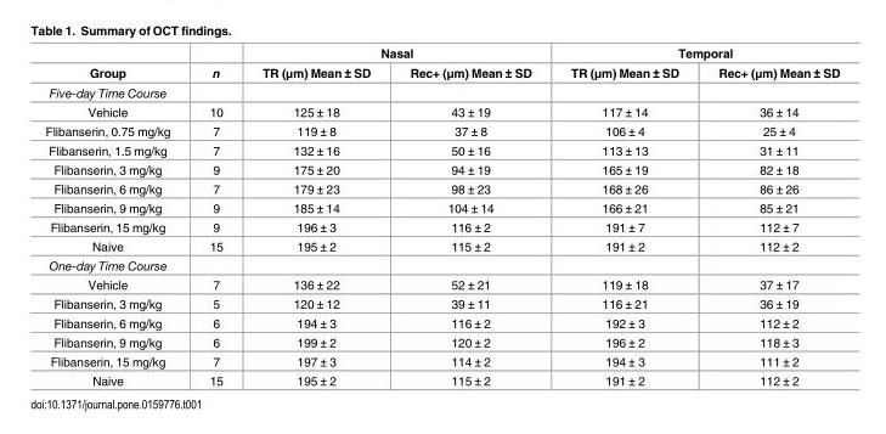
<table><thead><tr><td rowspan="2">Group</td><td rowspan="2">n</td><td colspan="2">Nasal</td><td colspan="2">Temporal</td></tr><tr><td>TR (μm) Mean ± SD</td><td>Rec+ (μm) Mean ± SD</td><td>TR (μm) Mean ± SD</td><td>Rec+ (μm) Mean ± SD</td></tr></thead><tbody><tr><td colspan="6">Five-day Time Course</td></tr><tr><td>Vehicle</td><td>10</td><td>125 ± 18</td><td>43 ± 19</td><td>117 ± 14</td><td>36 ± 14</td></tr><tr><td>Flibanserin, 0.75 mg/kg</td><td>7</td><td>119 ± 8</td><td>37 ± 8</td><td>106 ± 4</td><td>25 ± 4</td></tr><tr><td>Flibanserin, 1.5 mg/kg</td><td>7</td><td>132 ± 16</td><td>50 ± 16</td><td>113 ± 13</td><td>31 ± 11</td></tr><tr><td>Flibanserin, 3 mg/kg</td><td>9</td><td>175 ± 20</td><td>94 ± 19</td><td>165 ± 19</td><td>82 ± 18</td></tr><tr><td>Flibanserin, 6 mg/kg</td><td>7</td><td>179 ± 23</td><td>98 ± 23</td><td>168 ± 26</td><td>86 ± 26</td></tr><tr><td>Flibanserin, 9 mg/kg</td><td>9</td><td>185 ± 14</td><td>104 ± 14</td><td>166 ± 21</td><td>85 ± 21</td></tr><tr><td>Flibanserin, 15 mg/kg</td><td>9</td><td>196 ± 3</td><td>116 ± 2</td><td>191 ± 7</td><td>112 ± 7</td></tr><tr><td>Naive</td><td>15</td><td>195 ± 2</td><td>115 ± 2</td><td>191 ± 2</td><td>112 ± 2</td></tr><tr><td colspan="6">One-day Time Course</td></tr><tr><td>Vehicle</td><td>7</td><td>136 ± 22</td><td>52 ± 21</td><td>119 ± 18</td><td>37 ± 17</td></tr><tr><td>Flibanserin, 3 mg/kg</td><td>5</td><td>120 ± 12</td><td>39 ± 11</td><td>116 ± 21</td><td>36 ± 19</td></tr><tr><td>Flibanserin, 6 mg/kg</td><td>6</td><td>194 ± 3</td><td>116 ± 2</td><td>192 ± 3</td><td>112 ± 2</td></tr><tr><td>Flibanserin, 9 mg/kg</td><td>6</td><td>199 ± 2</td><td>120 ± 2</td><td>196 ± 2</td><td>118 ± 3</td></tr><tr><td>Flibanserin, 15 mg/kg</td><td>7</td><td>197 ± 3</td><td>114 ± 2</td><td>194 ± 3</td><td>111 ± 2</td></tr><tr><td>Naive</td><td>15</td><td>195 ± 2</td><td>115 ± 2</td><td>191 ± 2</td><td>112 ± 2</td></tr></tbody></table>